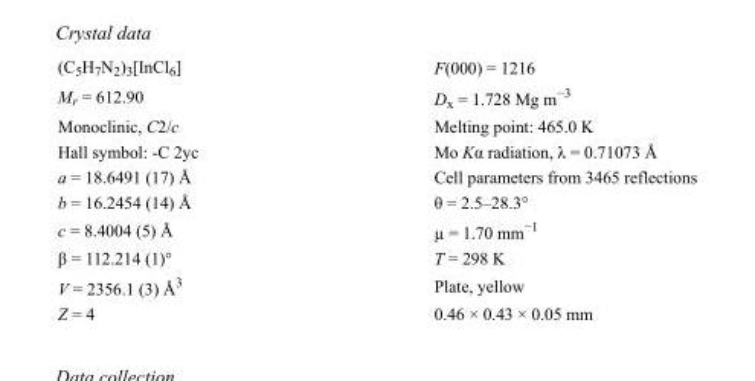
<table><tbody><tr><td>(C<sub>5</sub>H<sub>7</sub>N<sub>2</sub>)<sub>3</sub>[InCl<sub>6</sub>]</td><td>F(000) = 1216</td></tr><tr><td>M<sub>r</sub> = 612.90</td><td>D<sub>x</sub> = 1.728 Mg m<sup>−3</sup></td></tr><tr><td>Monoclinic, C2/c</td><td>Melting point: 465.0 K</td></tr><tr><td>Hall symbol: -C 2yc</td><td>Mo Kα radiation, λ = 0.71073 Å</td></tr><tr><td>a = 18.6491 (17) Å</td><td>Cell parameters from 3465 reflections</td></tr><tr><td>b = 16.2454 (14) Å</td><td>θ = 2.5–28.3°</td></tr><tr><td>c = 8.4004 (5) Å</td><td>µ = 1.70 mm<sup>−1</sup></td></tr><tr><td>β = 112.214 (1)°</td><td>T = 298 K</td></tr><tr><td>V = 2356.1 (3) Å<sup>3</sup></td><td>Plate, yellow</td></tr><tr><td>Z = 4</td><td>0.46 × 0.43 × 0.05 mm</td></tr></tbody></table>